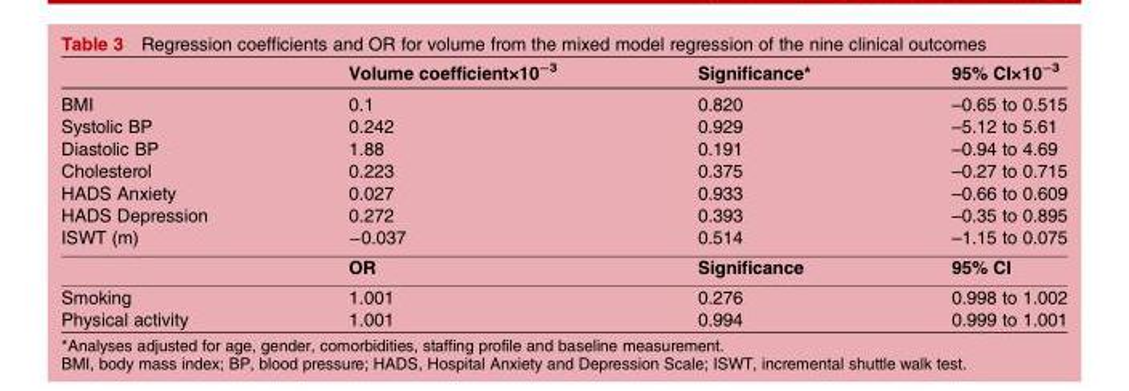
<table><thead><tr><td></td><td>Volume coefficient×10<sup>−3</sup></td><td>Significance*</td><td>95% CI×10<sup>−3</sup></td></tr></thead><tbody><tr><td>BMI</td><td>0.1</td><td>0.820</td><td>–0.65 to 0.515</td></tr><tr><td>Systolic BP</td><td>0.242</td><td>0.929</td><td>–5.12 to 5.61</td></tr><tr><td>Diastolic BP</td><td>1.88</td><td>0.191</td><td>–0.94 to 4.69</td></tr><tr><td>Cholesterol</td><td>0.223</td><td>0.375</td><td>–0.27 to 0.715</td></tr><tr><td>HADS Anxiety</td><td>0.027</td><td>0.933</td><td>–0.66 to 0.609</td></tr><tr><td>HADS Depression</td><td>0.272</td><td>0.393</td><td>–0.35 to 0.895</td></tr><tr><td rowspan="2">ISWT (m)</td><td>−0.037</td><td>0.514</td><td>–1.15 to 0.075</td></tr><tr><td>OR</td><td>Significance</td><td>95% CI</td></tr><tr><td>Smoking</td><td>1.001</td><td>0.276</td><td>0.998 to 1.002</td></tr><tr><td>Physical activity</td><td>1.001</td><td>0.994</td><td>0.999 to 1.001</td></tr></tbody></table>